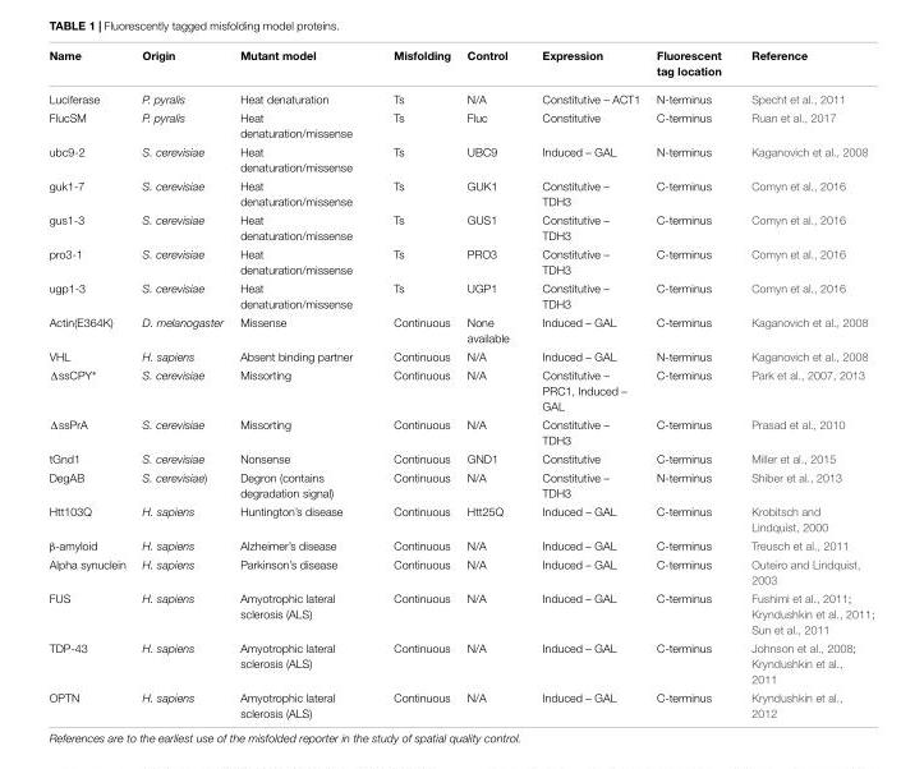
<table><thead><tr><td>Name</td><td>Origin</td><td>Mutant model</td><td>Misfolding</td><td>Control</td><td>Expression</td><td>Fluorescent tag location</td><td>Reference</td></tr></thead><tbody><tr><td>Luciferase</td><td>P. pyralis</td><td>Heat denaturation</td><td>Ts</td><td>N/A</td><td>Constitutive – ACT1</td><td>N-terminus</td><td>Specht et al., 2011</td></tr><tr><td>FlucSM</td><td>P. pyralis</td><td>Heat denaturation/missense</td><td>Ts</td><td>Fluc</td><td>Constitutive</td><td>C-terminus</td><td>Ruan et al., 2017</td></tr><tr><td>ubc9-2</td><td>S. cerevisiae</td><td>Heat denaturation/missense</td><td>Ts</td><td>UBC9</td><td>Induced – GAL</td><td>N-terminus</td><td>Kaganovich et al., 2008</td></tr><tr><td>guk1-7</td><td>S. cerevisiae</td><td>Heat denaturation/missense</td><td>Ts</td><td>GUK1</td><td>Constitutive – TDH3</td><td>C-terminus</td><td>Comyn et al., 2016</td></tr><tr><td>gus1-3</td><td>S. cerevisiae</td><td>Heat denaturation/missense</td><td>Ts</td><td>GUS1</td><td>Constitutive – TDH3</td><td>C-terminus</td><td>Comyn et al., 2016</td></tr><tr><td>pro3-1</td><td>S. cerevisiae</td><td>Heat denaturation/missense</td><td>Ts</td><td>PRO3</td><td>Constitutive – TDH3</td><td>C-terminus</td><td>Comyn et al., 2016</td></tr><tr><td>ugp1-3</td><td>S. cerevisiae</td><td>Heat denaturation/missense</td><td>Ts</td><td>UGP1</td><td>Constitutive – TDH3</td><td>C-terminus</td><td>Comyn et al., 2016</td></tr><tr><td>Actin(E364K)</td><td>D. melanogaster</td><td>Missense</td><td>Continuous</td><td>None available</td><td>Induced – GAL</td><td>C-terminus</td><td>Kaganovich et al., 2008</td></tr><tr><td>VHL</td><td>H. sapiens</td><td>Absent binding partner</td><td>Continuous</td><td>N/A</td><td>Induced – GAL</td><td>N-terminus</td><td>Kaganovich et al., 2008</td></tr><tr><td>ΔssCPY∗</td><td>S. cerevisiae</td><td>Missorting</td><td>Continuous</td><td>N/A</td><td>Constitutive – PRC1, Induced – GAL</td><td>C-terminus</td><td>Park et al., 2007, 2013</td></tr><tr><td>ΔssPrA</td><td>S. cerevisiae</td><td>Missorting</td><td>Continuous</td><td>N/A</td><td>Constitutive – TDH3</td><td>C-terminus</td><td>Prasad et al., 2010</td></tr><tr><td>tGnd1</td><td>S. cerevisiae</td><td>Nonsense</td><td>Continuous</td><td>GND1</td><td>Constitutive</td><td>C-terminus</td><td>Miller et al., 2015</td></tr><tr><td>DegAB</td><td>S. cerevisiae)</td><td>Degron (contains degradation signal)</td><td>Continuous</td><td>N/A</td><td>Constitutive – TDH3</td><td>N-terminus</td><td>Shiber et al., 2013</td></tr><tr><td>Htt103Q</td><td>H. sapiens</td><td>Huntington’s disease</td><td>Continuous</td><td>Htt25Q</td><td>Induced – GAL</td><td>C-terminus</td><td>Krobitsch and Lindquist, 2000</td></tr><tr><td>β-amyloid</td><td>H. sapiens</td><td>Alzheimer’s disease</td><td>Continuous</td><td>N/A</td><td>Induced – GAL</td><td>C-terminus</td><td>Treusch et al., 2011</td></tr><tr><td>Alpha synuclein</td><td>H. sapiens</td><td>Parkinson’s disease</td><td>Continuous</td><td>N/A</td><td>Induced – GAL</td><td>C-terminus</td><td>Outeiro and Lindquist, 2003</td></tr><tr><td>FUS</td><td>H. sapiens</td><td>Amyotrophic lateral sclerosis (ALS)</td><td>Continuous</td><td>N/A</td><td>Induced – GAL</td><td>C-terminus</td><td>Fushimi et al., 2011; Kryndushkin et al., 2011; Sun et al., 2011</td></tr><tr><td>TDP-43</td><td>H. sapiens</td><td>Amyotrophic lateral sclerosis (ALS)</td><td>Continuous</td><td>N/A</td><td>Induced – GAL</td><td>C-terminus</td><td>Johnson et al., 2008; Kryndushkin et al., 2011</td></tr><tr><td>OPTN</td><td>H. sapiens</td><td>Amyotrophic lateral sclerosis (ALS)</td><td>Continuous</td><td>N/A</td><td>Induced – GAL</td><td>C-terminus</td><td>Kryndushkin et al., 2012</td></tr></tbody></table>